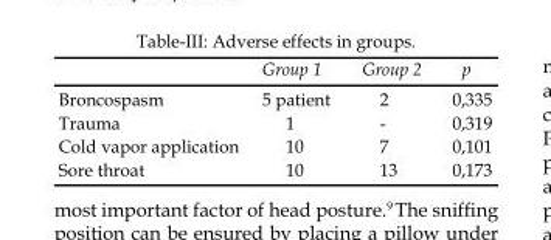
<table><thead><tr><td></td><td>Group 1</td><td>Group 2</td><td>p</td></tr></thead><tbody><tr><td>Broncospasm</td><td>5 patient</td><td>2</td><td>0,335</td></tr><tr><td>Trauma</td><td>1</td><td>-</td><td>0,319</td></tr><tr><td>Cold vapor application</td><td>10</td><td>7</td><td>0,101</td></tr><tr><td>Sore throat</td><td>10</td><td>13</td><td>0,173</td></tr></tbody></table>